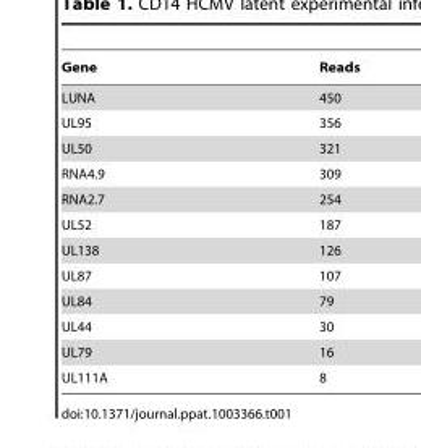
<table><thead><tr><td>Gene</td><td>Reads</td></tr></thead><tbody><tr><td>LUNA</td><td>450</td></tr><tr><td>UL95</td><td>356</td></tr><tr><td>UL50</td><td>321</td></tr><tr><td>RNA4.9</td><td>309</td></tr><tr><td>RNA2.7</td><td>254</td></tr><tr><td>UL52</td><td>187</td></tr><tr><td>UL138</td><td>126</td></tr><tr><td>UL87</td><td>107</td></tr><tr><td>UL84</td><td>79</td></tr><tr><td>UL44</td><td>30</td></tr><tr><td>UL79</td><td>16</td></tr><tr><td>UL111A</td><td>8</td></tr></tbody></table>